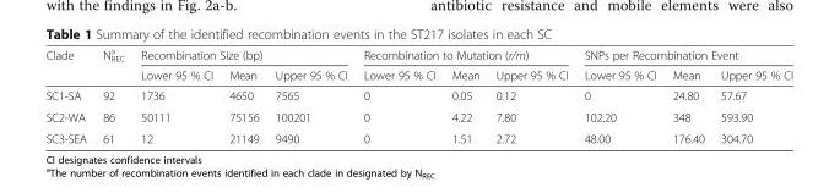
<table><thead><tr><td rowspan="2">Clade</td><td rowspan="2">N<sub>REC</sub> <sup>a</sup></td><td colspan="3">Recombination Size (bp)</td><td colspan="3">Recombination to Mutation (r/m)</td><td colspan="3">SNPs per Recombination Event</td></tr><tr><td>Lower 95 % CI</td><td>Mean</td><td>Upper 95 % CI</td><td>Lower 95 % CI</td><td>Mean</td><td>Upper 95 % CI</td><td>Lower 95 % CI</td><td>Mean</td><td>Upper 95 % CI</td></tr></thead><tbody><tr><td>SC1-SA</td><td>92</td><td>1736</td><td>4650</td><td>7565</td><td>0</td><td>0.05</td><td>0.12</td><td>0</td><td>24.80</td><td>57.67</td></tr><tr><td>SC2-WA</td><td>86</td><td>50111</td><td>75156</td><td>100201</td><td>0</td><td>4.22</td><td>7.80</td><td>102.20</td><td>348</td><td>593.90</td></tr><tr><td>SC3-SEA</td><td>61</td><td>12</td><td>21149</td><td>9490</td><td>0</td><td>1.51</td><td>2.72</td><td>48.00</td><td>176.40</td><td>304.70</td></tr></tbody></table>